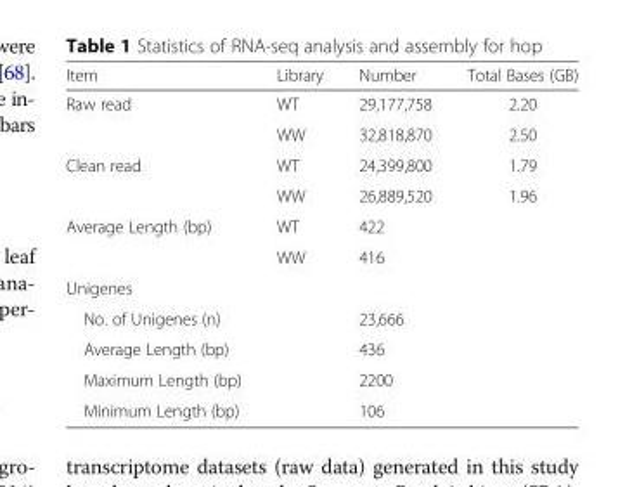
<table><thead><tr><td>Item</td><td>Library</td><td>Number</td><td>Total Bases (GB)</td></tr></thead><tbody><tr><td rowspan="2">Raw read</td><td>WT</td><td>29,177,758</td><td>2.20</td></tr><tr><td>WW</td><td>32,818,870</td><td>2.50</td></tr><tr><td rowspan="2">Clean read</td><td>WT</td><td>24,399,800</td><td>1.79</td></tr><tr><td>WW</td><td>26,889,520</td><td>1.96</td></tr><tr><td rowspan="2">Average Length (bp)</td><td>WT</td><td>422</td><td></td></tr><tr><td>WW</td><td>416</td><td></td></tr><tr><td colspan="4">Unigenes</td></tr><tr><td>No. of Unigenes (n)</td><td></td><td>23,666</td><td></td></tr><tr><td>Average Length (bp)</td><td></td><td>436</td><td></td></tr><tr><td>Maximum Length (bp)</td><td></td><td>2200</td><td></td></tr><tr><td>Minimum Length (bp)</td><td></td><td>106</td><td></td></tr></tbody></table>